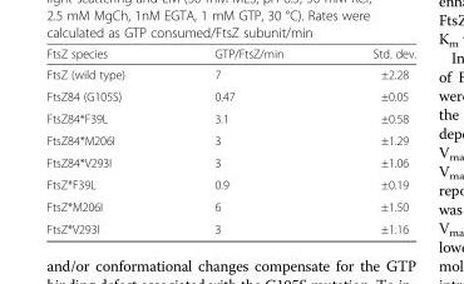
<table><thead><tr><td>FtsZ species</td><td>GTP/FtsZ/min</td><td>Std. dev.</td></tr></thead><tbody><tr><td>FtsZ (wild type)</td><td>7</td><td>±2.28</td></tr><tr><td>FtsZ84 (G105S)</td><td>0.47</td><td>±0.05</td></tr><tr><td>FtsZ84*F39L</td><td>3.1</td><td>±0.58</td></tr><tr><td>FtsZ84*M206I</td><td>3</td><td>±1.29</td></tr><tr><td>FtsZ84*V293I</td><td>3</td><td>±1.06</td></tr><tr><td>FtsZ*F39L</td><td>0.9</td><td>±0.19</td></tr><tr><td>FtsZ*M206I</td><td>6</td><td>±1.50</td></tr><tr><td>FtsZ*V293I</td><td>3</td><td>±1.16</td></tr></tbody></table>